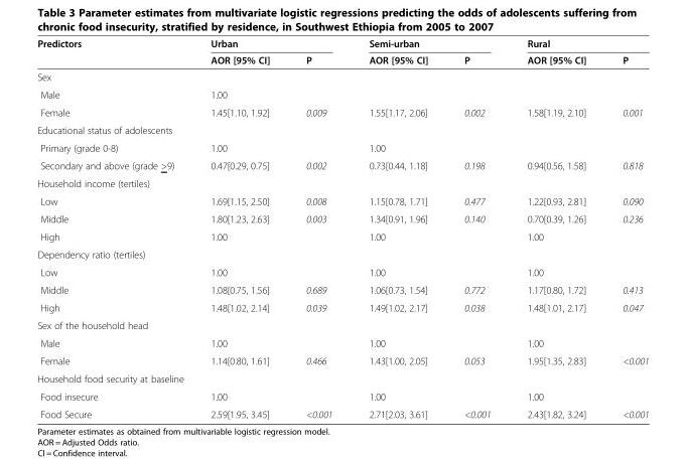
<table><thead><tr><td rowspan="2">Predictors</td><td colspan="2">Urban</td><td colspan="2">Semi-urban</td><td colspan="2">Rural</td></tr><tr><td>AOR [95% CI]</td><td>P</td><td>AOR [95% CI]</td><td>P</td><td>AOR [95% CI]</td><td>P</td></tr></thead><tbody><tr><td colspan="7">Sex</td></tr><tr><td>Male</td><td>1.00</td><td></td><td></td><td></td><td></td><td></td></tr><tr><td>Female</td><td>1.45[1.10, 1.92]</td><td>0.009</td><td>1.55[1.17, 2.06]</td><td>0.002</td><td>1.58[1.19, 2.10]</td><td>0.001</td></tr><tr><td colspan="7">Educational status of adolescents</td></tr><tr><td>Primary (grade 0-8)</td><td>1.00</td><td></td><td>1.00</td><td></td><td></td><td></td></tr><tr><td>Secondary and above (grade &gt;9)</td><td>0.47[0.29, 0.75]</td><td>0.002</td><td>0.73[0.44, 1.18]</td><td>0.198</td><td>0.94[0.56, 1.58]</td><td>0.818</td></tr><tr><td colspan="7">Household income (tertiles)</td></tr><tr><td>Low</td><td>1.69[1.15, 2.50]</td><td>0.008</td><td>1.15[0.78, 1.71]</td><td>0.477</td><td>1.22[0.93, 2.81]</td><td>0.090</td></tr><tr><td>Middle</td><td>1.80[1.23, 2.63]</td><td>0.003</td><td>1.34[0.91, 1.96]</td><td>0.140</td><td>0.70[0.39, 1.26]</td><td>0.236</td></tr><tr><td>High</td><td>1.00</td><td></td><td>1.00</td><td></td><td>1.00</td><td></td></tr><tr><td colspan="7">Dependency ratio (tertiles)</td></tr><tr><td>Low</td><td>1.00</td><td></td><td>1.00</td><td></td><td>1.00</td><td></td></tr><tr><td>Middle</td><td>1.08[0.75, 1.56]</td><td>0.689</td><td>1.06[0.73, 1.54]</td><td>0.772</td><td>1.17[0.80, 1.72]</td><td>0.413</td></tr><tr><td>High</td><td>1.48[1.02, 2.14]</td><td>0.039</td><td>1.49[1.02, 2.17]</td><td>0.038</td><td>1.48[1.01, 2.17]</td><td>0.047</td></tr><tr><td colspan="7">Sex of the household head</td></tr><tr><td>Male</td><td>1.00</td><td></td><td>1.00</td><td></td><td>1.00</td><td></td></tr><tr><td>Female</td><td>1.14[0.80, 1.61]</td><td>0.466</td><td>1.43[1.00, 2.05]</td><td>0.053</td><td>1.95[1.35, 2.83]</td><td>&lt;0.001</td></tr><tr><td colspan="7">Household food security at baseline</td></tr><tr><td>Food insecure</td><td>1.00</td><td></td><td>1.00</td><td></td><td>1.00</td><td></td></tr><tr><td>Food Secure</td><td>2.59[1.95, 3.45]</td><td>&lt;0.001</td><td>2.71[2.03, 3.61]</td><td>&lt;0.001</td><td>2.43[1.82, 3.24]</td><td>&lt;0.001</td></tr></tbody></table>